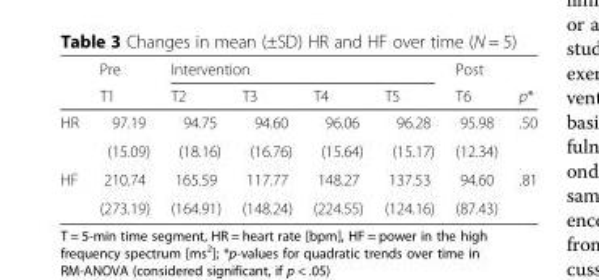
<table><thead><tr><td rowspan="2"></td><td rowspan="2">Pre T1</td><td colspan="4">Intervention</td><td rowspan="2">Post T6</td><td rowspan="2">p*</td></tr><tr><td>T2</td><td>T3</td><td>T4</td><td>T5</td></tr></thead><tbody><tr><td rowspan="2">HR</td><td>97.19</td><td>94.75</td><td>94.60</td><td>96.06</td><td>96.28</td><td>95.98</td><td>.50</td></tr><tr><td>(15.09)</td><td>(18.16)</td><td>(16.76)</td><td>(15.64)</td><td>(15.17)</td><td>(12.34)</td><td></td></tr><tr><td rowspan="2">HF</td><td>210.74</td><td>165.59</td><td>117.77</td><td>148.27</td><td>137.53</td><td>94.60</td><td>.81</td></tr><tr><td>(273.19)</td><td>(164.91)</td><td>(148.24)</td><td>(224.55)</td><td>(124.16)</td><td>(87.43)</td><td></td></tr></tbody></table>